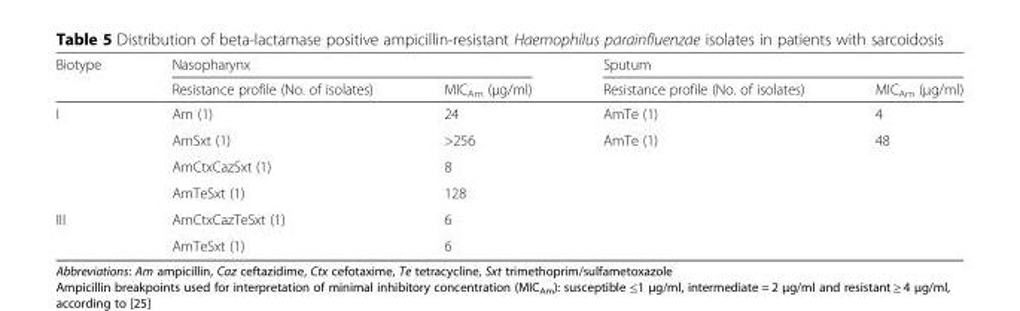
<table><thead><tr><td rowspan="2">Biotype</td><td colspan="2">Nasopharynx</td><td colspan="2">Sputum</td></tr><tr><td>Resistance profile (No. of isolates)</td><td>MIC<sub>Am</sub> (μg/ml)</td><td>Resistance profile (No. of isolates)</td><td>MIC<sub>Am</sub> (μg/ml)</td></tr></thead><tbody><tr><td rowspan="4">I</td><td>Am (1)</td><td>24</td><td>AmTe (1)</td><td>4</td></tr><tr><td>AmSxt (1)</td><td>&gt;256</td><td>AmTe (1)</td><td>48</td></tr><tr><td>AmCtxCazSxt (1)</td><td>8</td><td></td><td></td></tr><tr><td>AmTeSxt (1)</td><td>128</td><td></td><td></td></tr><tr><td rowspan="2">III</td><td>AmCtxCazTeSxt (1)</td><td>6</td><td></td><td></td></tr><tr><td>AmTeSxt (1)</td><td>6</td><td></td><td></td></tr></tbody></table>